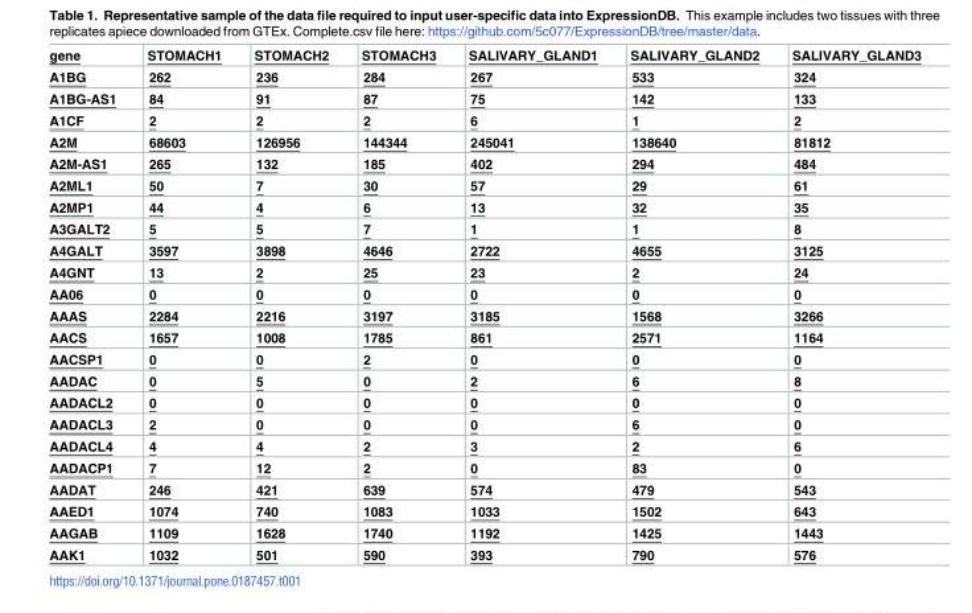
<table><thead><tr><td>gene</td><td>STOMACH1</td><td>STOMACH2</td><td>STOMACH3</td><td>SALIVARY_GLAND1</td><td>SALIVARY_GLAND2</td><td>SALIVARY_GLAND3</td></tr></thead><tbody><tr><td>A1BG</td><td>262</td><td>236</td><td>284</td><td>267</td><td>533</td><td>324</td></tr><tr><td>A1BG-AS1</td><td>84</td><td>91</td><td>87</td><td>75</td><td>142</td><td>133</td></tr><tr><td>A1CF</td><td>2</td><td>2</td><td>2</td><td>6</td><td>1</td><td>2</td></tr><tr><td>A2M</td><td>68603</td><td>126956</td><td>144344</td><td>245041</td><td>138640</td><td>81812</td></tr><tr><td>A2M-AS1</td><td>265</td><td>132</td><td>185</td><td>402</td><td>294</td><td>484</td></tr><tr><td>A2ML1</td><td>50</td><td>7</td><td>30</td><td>57</td><td>29</td><td>61</td></tr><tr><td>A2MP1</td><td>44</td><td>4</td><td>6</td><td>13</td><td>32</td><td>35</td></tr><tr><td>A3GALT2</td><td>5</td><td>5</td><td>7</td><td>1</td><td>1</td><td>8</td></tr><tr><td>A4GALT</td><td>3597</td><td>3898</td><td>4646</td><td>2722</td><td>4655</td><td>3125</td></tr><tr><td>A4GNT</td><td>13</td><td>2</td><td>25</td><td>23</td><td>2</td><td>24</td></tr><tr><td>AA06</td><td>0</td><td>0</td><td>0</td><td>0</td><td>0</td><td>0</td></tr><tr><td>AAAS</td><td>2284</td><td>2216</td><td>3197</td><td>3185</td><td>1568</td><td>3266</td></tr><tr><td>AACS</td><td>1657</td><td>1008</td><td>1785</td><td>861</td><td>2571</td><td>1164</td></tr><tr><td>AACSP1</td><td>0</td><td>0</td><td>2</td><td>0</td><td>0</td><td>0</td></tr><tr><td>AADAC</td><td>0</td><td>5</td><td>0</td><td>2</td><td>6</td><td>8</td></tr><tr><td>AADACL2</td><td>0</td><td>0</td><td>0</td><td>0</td><td>0</td><td>0</td></tr><tr><td>AADACL3</td><td>2</td><td>0</td><td>0</td><td>0</td><td>6</td><td>0</td></tr><tr><td>AADACL4</td><td>4</td><td>4</td><td>2</td><td>3</td><td>2</td><td>6</td></tr><tr><td>AADACP1</td><td>7</td><td>12</td><td>2</td><td>0</td><td>83</td><td>0</td></tr><tr><td>AADAT</td><td>246</td><td>421</td><td>639</td><td>574</td><td>479</td><td>543</td></tr><tr><td>AAED1</td><td>1074</td><td>740</td><td>1083</td><td>1033</td><td>1502</td><td>643</td></tr><tr><td>AAGAB</td><td>1109</td><td>1628</td><td>1740</td><td>1192</td><td>1425</td><td>1443</td></tr><tr><td>AAK1</td><td>1032</td><td>501</td><td>590</td><td>393</td><td>790</td><td>576</td></tr></tbody></table>